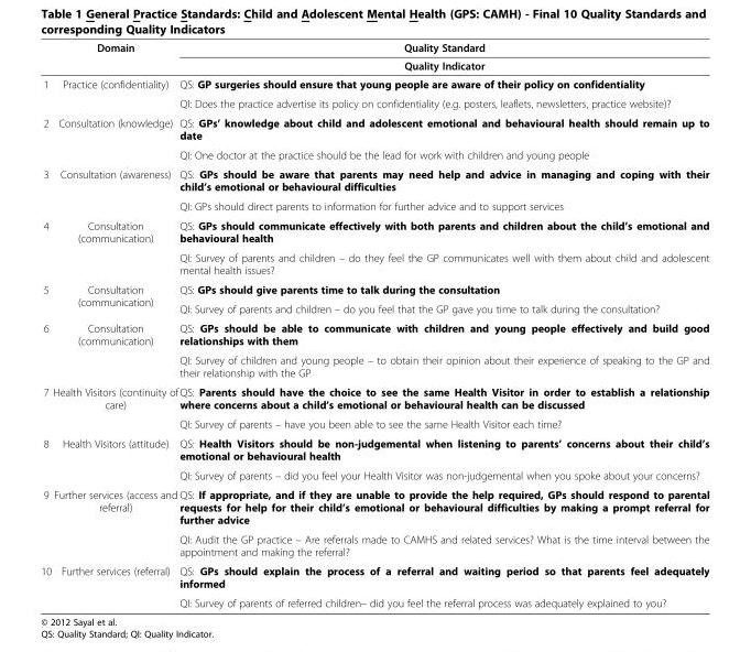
<table><thead><tr><td rowspan="2"></td><td rowspan="2">Domain</td><td rowspan="2">Quality Standard Quality Indicator</td></tr><tr></tr></thead><tbody><tr><td rowspan="2">1</td><td rowspan="2">Practice (confidentiality)</td><td>QS: GP surgeries should ensure that young people are aware of their policy on confidentiality</td></tr><tr><td>QI: Does the practice advertise its policy on confidentiality (e.g. posters, leaflets, newsletters, practice website)?</td></tr><tr><td rowspan="2">2</td><td rowspan="2">Consultation (knowledge)</td><td>QS: GPs’ knowledge about child and adolescent emotional and behavioural health should remain up to date</td></tr><tr><td>QI: One doctor at the practice should be the lead for work with children and young people</td></tr><tr><td rowspan="2">3</td><td rowspan="2">Consultation (awareness)</td><td>QS: GPs should be aware that parents may need help and advice in managing and coping with their child’s emotional or behavioural difficulties</td></tr><tr><td>QI: GPs should direct parents to information for further advice and to support services</td></tr><tr><td rowspan="2">4</td><td rowspan="2">Consultation (communication)</td><td>QS: GPs should communicate effectively with both parents and children about the child’s emotional and behavioural health</td></tr><tr><td>QI: Survey of parents and children – do they feel the GP communicates well with them about child and adolescent mental health issues?</td></tr><tr><td rowspan="2">5</td><td rowspan="2">Consultation (communication)</td><td>QS: GPs should give parents time to talk during the consultation</td></tr><tr><td>QI: Survey of parents and children – do you feel that the GP gave you time to talk during the consultation?</td></tr><tr><td rowspan="2">6</td><td rowspan="2">Consultation (communication)</td><td>QS: GPs should be able to communicate with children and young people effectively and build good relationships with them</td></tr><tr><td>QI: Survey of children and young people – to obtain their opinion about their experience of speaking to the GP and their relationship with the GP</td></tr><tr><td rowspan="2">7</td><td rowspan="2">Health Visitors (continuity of care)</td><td>QS: Parents should have the choice to see the same Health Visitor in order to establish a relationship where concerns about a child’s emotional or behavioural health can be discussed</td></tr><tr><td>QI: Survey of parents – have you been able to see the same Health Visitor each time?</td></tr><tr><td rowspan="2">8</td><td rowspan="2">Health Visitors (attitude)</td><td>QS: Health Visitors should be non-judgemental when listening to parents’ concerns about their child’s emotional or behavioural health</td></tr><tr><td>QI: Survey of parents – did you feel your Health Visitor was non-judgemental when you spoke about your concerns?</td></tr><tr><td rowspan="2">9</td><td rowspan="2">Further services (access and referral)</td><td>QS: If appropriate, and if they are unable to provide the help required, GPs should respond to parental requests for help for their child’s emotional or behavioural difficulties by making a prompt referral for further advice</td></tr><tr><td>QI: Audit the GP practice – Are referrals made to CAMHS and related services? What is the time interval between the appointment and making the referral?</td></tr><tr><td rowspan="2">10</td><td rowspan="2">Further services (referral)</td><td>QS: GPs should explain the process of a referral and waiting period so that parents feel adequately informed</td></tr><tr><td>QI: Survey of parents of referred children– did you feel the referral process was adequately explained to you?</td></tr></tbody></table>